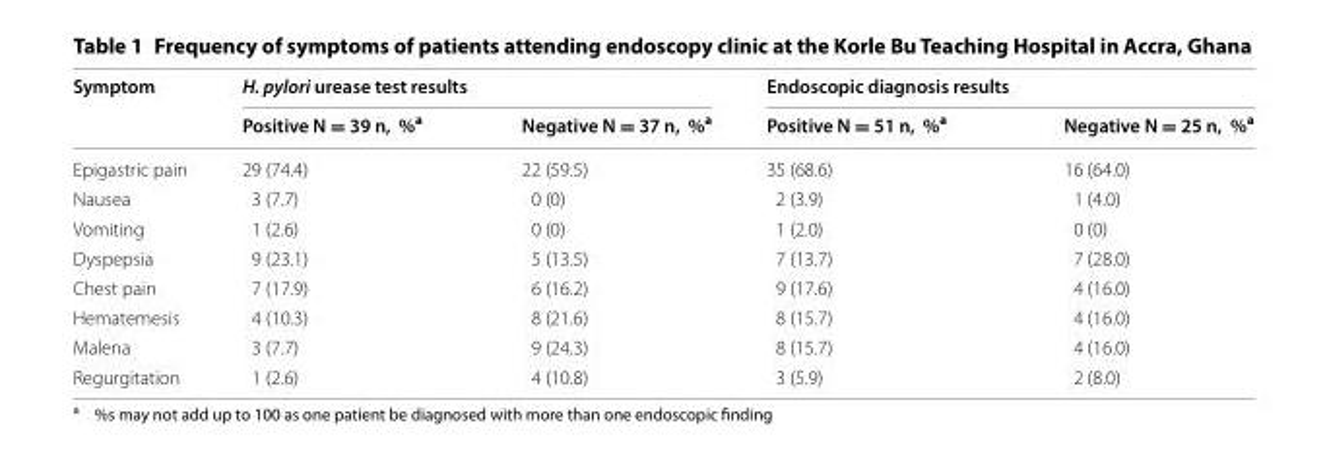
<table><thead><tr><td rowspan="2">Symptom</td><td colspan="2">H. pylori urease test results</td><td colspan="2">Endoscopic diagnosis results</td></tr><tr><td>Positive N = 39 n, %<sup>a</sup></td><td>Negative N = 37 n, %<sup>a</sup></td><td>Positive N = 51 n, %<sup>a</sup></td><td>Negative N = 25 n, %<sup>a</sup></td></tr></thead><tbody><tr><td>Epigastric pain</td><td>29 (74.4)</td><td>22 (59.5)</td><td>35 (68.6)</td><td>16 (64.0)</td></tr><tr><td>Nausea</td><td>3 (7.7)</td><td>0 (0)</td><td>2 (3.9)</td><td>1 (4.0)</td></tr><tr><td>Vomiting</td><td>1 (2.6)</td><td>0 (0)</td><td>1 (2.0)</td><td>0 (0)</td></tr><tr><td>Dyspepsia</td><td>9 (23.1)</td><td>5 (13.5)</td><td>7 (13.7)</td><td>7 (28.0)</td></tr><tr><td>Chest pain</td><td>7 (17.9)</td><td>6 (16.2)</td><td>9 (17.6)</td><td>4 (16.0)</td></tr><tr><td>Hematemesis</td><td>4 (10.3)</td><td>8 (21.6)</td><td>8 (15.7)</td><td>4 (16.0)</td></tr><tr><td>Malena</td><td>3 (7.7)</td><td>9 (24.3)</td><td>8 (15.7)</td><td>4 (16.0)</td></tr><tr><td>Regurgitation</td><td>1 (2.6)</td><td>4 (10.8)</td><td>3 (5.9)</td><td>2 (8.0)</td></tr></tbody></table>